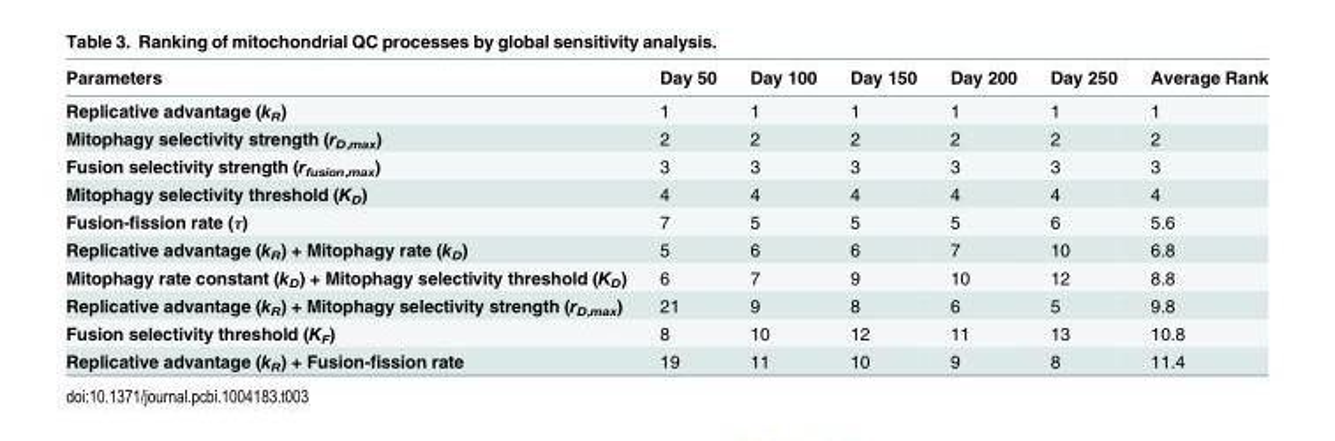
<table><thead><tr><td>Parameters</td><td>Day 50</td><td>Day 100</td><td>Day 150</td><td>Day 200</td><td>Day 250</td><td>Average Rank</td></tr></thead><tbody><tr><td>Replicative advantage (k<sub>R</sub>)</td><td>1</td><td>1</td><td>1</td><td>1</td><td>1</td><td>1</td></tr><tr><td>Mitophagy selectivity strength (r<sub>D,max</sub>)</td><td>2</td><td>2</td><td>2</td><td>2</td><td>2</td><td>2</td></tr><tr><td>Fusion selectivity strength (r<sub>fusion,max</sub>)</td><td>3</td><td>3</td><td>3</td><td>3</td><td>3</td><td>3</td></tr><tr><td>Mitophagy selectivity threshold (K<sub>D</sub>)</td><td>4</td><td>4</td><td>4</td><td>4</td><td>4</td><td>4</td></tr><tr><td>Fusion-fission rate (τ)</td><td>7</td><td>5</td><td>5</td><td>5</td><td>6</td><td>5.6</td></tr><tr><td>Replicative advantage (k<sub>R</sub>) + Mitophagy rate (k<sub>D</sub>)</td><td>5</td><td>6</td><td>6</td><td>7</td><td>10</td><td>6.8</td></tr><tr><td>Mitophagy rate constant (k<sub>D</sub>) + Mitophagy selectivity threshold (K<sub>D</sub>)</td><td>6</td><td>7</td><td>9</td><td>10</td><td>12</td><td>8.8</td></tr><tr><td>Replicative advantage (k<sub>R</sub>) + Mitophagy selectivity strength (r<sub>D,max</sub>)</td><td>21</td><td>9</td><td>8</td><td>6</td><td>5</td><td>9.8</td></tr><tr><td>Fusion selectivity threshold (K<sub>F</sub>)</td><td>8</td><td>10</td><td>12</td><td>11</td><td>13</td><td>10.8</td></tr><tr><td>Replicative advantage (k<sub>R</sub>) + Fusion-fission rate</td><td>19</td><td>11</td><td>10</td><td>9</td><td>8</td><td>11.4</td></tr></tbody></table>